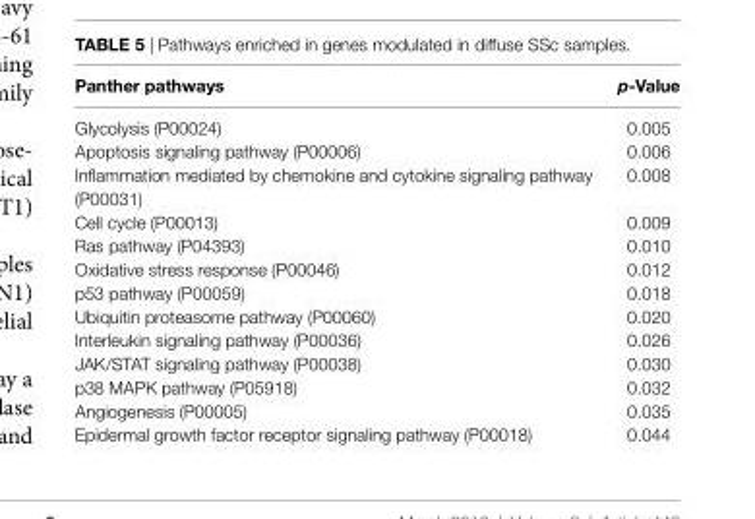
<table><thead><tr><td>Panther pathways</td><td>p-Value</td></tr></thead><tbody><tr><td>Glycolysis (P00024)</td><td>0.005</td></tr><tr><td>Apoptosis signaling pathway (P00006)</td><td>0.006</td></tr><tr><td>Inflammation mediated by chemokine and cytokine signaling pathway (P00031)</td><td>0.008</td></tr><tr><td>Cell cycle (P00013)</td><td>0.009</td></tr><tr><td>Ras pathway (P04393)</td><td>0.010</td></tr><tr><td>Oxidative stress response (P00046)</td><td>0.012</td></tr><tr><td>p53 pathway (P00059)</td><td>0.018</td></tr><tr><td>Ubiquitin proteasome pathway (P00060)</td><td>0.020</td></tr><tr><td>Interleukin signaling pathway (P00036)</td><td>0.026</td></tr><tr><td>JAK/STAT signaling pathway (P00038)</td><td>0.030</td></tr><tr><td>p38 MAPK pathway (P05918)</td><td>0.032</td></tr><tr><td>Angiogenesis (P00005)</td><td>0.035</td></tr><tr><td>Epidermal growth factor receptor signaling pathway (P00018)</td><td>0.044</td></tr></tbody></table>